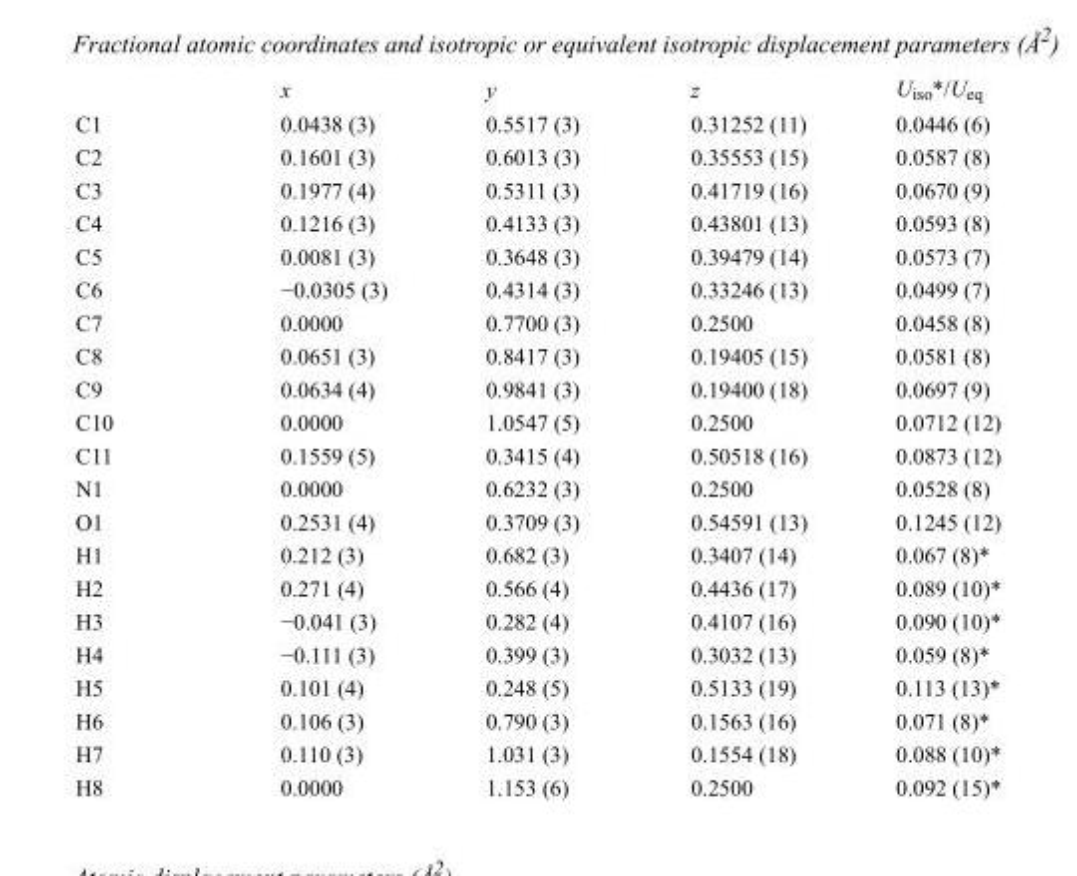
<table><thead><tr><td></td><td>x</td><td>y</td><td>z</td><td>U<sub>iso</sub>*/U<sub>eq</sub></td></tr></thead><tbody><tr><td>C1</td><td>0.0438 (3)</td><td>0.5517 (3)</td><td>0.31252 (11)</td><td>0.0446 (6)</td></tr><tr><td>C2</td><td>0.1601 (3)</td><td>0.6013 (3)</td><td>0.35553 (15)</td><td>0.0587 (8)</td></tr><tr><td>C3</td><td>0.1977 (4)</td><td>0.5311 (3)</td><td>0.41719 (16)</td><td>0.0670 (9)</td></tr><tr><td>C4</td><td>0.1216 (3)</td><td>0.4133 (3)</td><td>0.43801 (13)</td><td>0.0593 (8)</td></tr><tr><td>C5</td><td>0.0081 (3)</td><td>0.3648 (3)</td><td>0.39479 (14)</td><td>0.0573 (7)</td></tr><tr><td>C6</td><td>−0.0305 (3)</td><td>0.4314 (3)</td><td>0.33246 (13)</td><td>0.0499 (7)</td></tr><tr><td>C7</td><td>0.0000</td><td>0.7700 (3)</td><td>0.2500</td><td>0.0458 (8)</td></tr><tr><td>C8</td><td>0.0651 (3)</td><td>0.8417 (3)</td><td>0.19405 (15)</td><td>0.0581 (8)</td></tr><tr><td>C9</td><td>0.0634 (4)</td><td>0.9841 (3)</td><td>0.19400 (18)</td><td>0.0697 (9)</td></tr><tr><td>C10</td><td>0.0000</td><td>1.0547 (5)</td><td>0.2500</td><td>0.0712 (12)</td></tr><tr><td>C11</td><td>0.1559 (5)</td><td>0.3415 (4)</td><td>0.50518 (16)</td><td>0.0873 (12)</td></tr><tr><td>N1</td><td>0.0000</td><td>0.6232 (3)</td><td>0.2500</td><td>0.0528 (8)</td></tr><tr><td>O1</td><td>0.2531 (4)</td><td>0.3709 (3)</td><td>0.54591 (13)</td><td>0.1245 (12)</td></tr><tr><td>H1</td><td>0.212 (3)</td><td>0.682 (3)</td><td>0.3407 (14)</td><td>0.067 (8)*</td></tr><tr><td>H2</td><td>0.271 (4)</td><td>0.566 (4)</td><td>0.4436 (17)</td><td>0.089 (10)*</td></tr><tr><td>H3</td><td>−0.041 (3)</td><td>0.282 (4)</td><td>0.4107 (16)</td><td>0.090 (10)*</td></tr><tr><td>H4</td><td>−0.111 (3)</td><td>0.399 (3)</td><td>0.3032 (13)</td><td>0.059 (8)*</td></tr><tr><td>H5</td><td>0.101 (4)</td><td>0.248 (5)</td><td>0.5133 (19)</td><td>0.113 (13)*</td></tr><tr><td>H6</td><td>0.106 (3)</td><td>0.790 (3)</td><td>0.1563 (16)</td><td>0.071 (8)*</td></tr><tr><td>H7</td><td>0.110 (3)</td><td>1.031 (3)</td><td>0.1554 (18)</td><td>0.088 (10)*</td></tr><tr><td>H8</td><td>0.0000</td><td>1.153 (6)</td><td>0.2500</td><td>0.092 (15)*</td></tr></tbody></table>